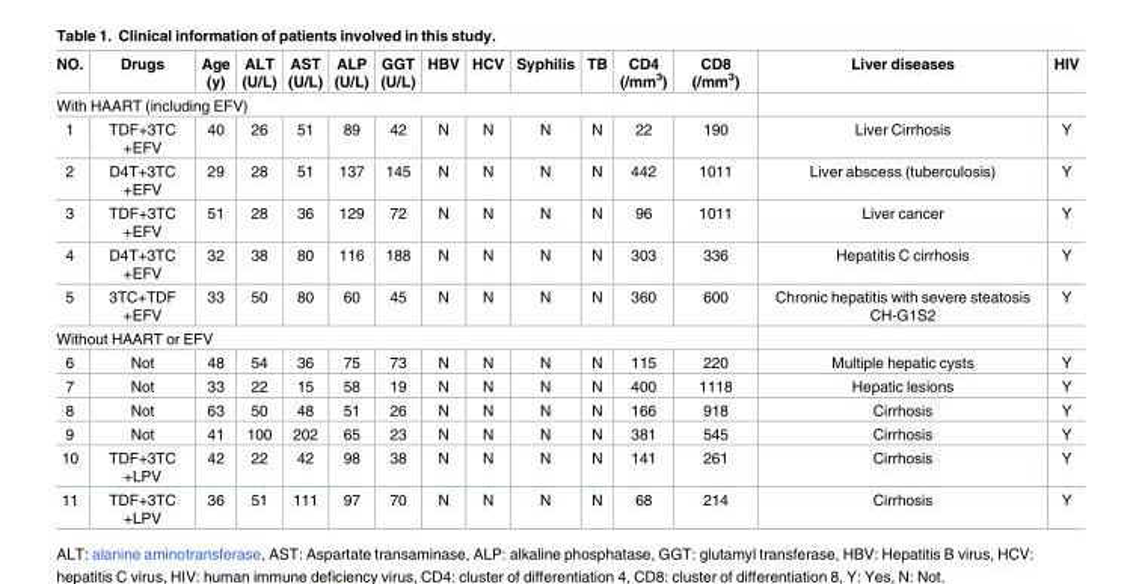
<table><thead><tr><td>NO.</td><td>Drugs</td><td>Age (y)</td><td>ALT (U/L)</td><td>AST (U/L)</td><td>ALP (U/L)</td><td>GGT (U/L)</td><td>HBV</td><td>HCV</td><td>Syphilis</td><td>TB</td><td>CD4 (/mm<sup>3</sup>)</td><td>CD8 (/mm<sup>3</sup>)</td><td>Liver diseases</td><td>HIV</td></tr></thead><tbody><tr><td colspan="15">With HAART (including EFV)</td></tr><tr><td>1</td><td>TDF+3TC +EFV</td><td>40</td><td>26</td><td>51</td><td>89</td><td>42</td><td>N</td><td>N</td><td>N</td><td>N</td><td>22</td><td>190</td><td>Liver Cirrhosis</td><td>Y</td></tr><tr><td>2</td><td>D4T+3TC +EFV</td><td>29</td><td>28</td><td>51</td><td>137</td><td>145</td><td>N</td><td>N</td><td>N</td><td>N</td><td>442</td><td>1011</td><td>Liver abscess (tuberculosis)</td><td>Y</td></tr><tr><td>3</td><td>TDF+3TC +EFV</td><td>51</td><td>28</td><td>36</td><td>129</td><td>72</td><td>N</td><td>N</td><td>N</td><td>N</td><td>96</td><td>1011</td><td>Liver cancer</td><td>Y</td></tr><tr><td>4</td><td>D4T+3TC +EFV</td><td>32</td><td>38</td><td>80</td><td>116</td><td>188</td><td>N</td><td>N</td><td>N</td><td>N</td><td>303</td><td>336</td><td>Hepatitis C cirrhosis</td><td>Y</td></tr><tr><td>5</td><td>3TC+TDF +EFV</td><td>33</td><td>50</td><td>80</td><td>60</td><td>45</td><td>N</td><td>N</td><td>N</td><td>N</td><td>360</td><td>600</td><td>Chronic hepatitis with severe steatosis CH-G1S2</td><td>Y</td></tr><tr><td colspan="15">Without HAART or EFV</td></tr><tr><td>6</td><td>Not</td><td>48</td><td>54</td><td>36</td><td>75</td><td>73</td><td>N</td><td>N</td><td>N</td><td>N</td><td>115</td><td>220</td><td>Multiple hepatic cysts</td><td>Y</td></tr><tr><td>7</td><td>Not</td><td>33</td><td>22</td><td>15</td><td>58</td><td>19</td><td>N</td><td>N</td><td>N</td><td>N</td><td>400</td><td>1118</td><td>Hepatic lesions</td><td>Y</td></tr><tr><td>8</td><td>Not</td><td>63</td><td>50</td><td>48</td><td>51</td><td>26</td><td>N</td><td>N</td><td>N</td><td>N</td><td>166</td><td>918</td><td>Cirrhosis</td><td>Y</td></tr><tr><td>9</td><td>Not</td><td>41</td><td>100</td><td>202</td><td>65</td><td>23</td><td>N</td><td>N</td><td>N</td><td>N</td><td>381</td><td>545</td><td>Cirrhosis</td><td>Y</td></tr><tr><td>10</td><td>TDF+3TC +LPV</td><td>42</td><td>22</td><td>42</td><td>98</td><td>38</td><td>N</td><td>N</td><td>N</td><td>N</td><td>141</td><td>261</td><td>Cirrhosis</td><td>Y</td></tr><tr><td>11</td><td>TDF+3TC +LPV</td><td>36</td><td>51</td><td>111</td><td>97</td><td>70</td><td>N</td><td>N</td><td>N</td><td>N</td><td>68</td><td>214</td><td>Cirrhosis</td><td>Y</td></tr></tbody></table>